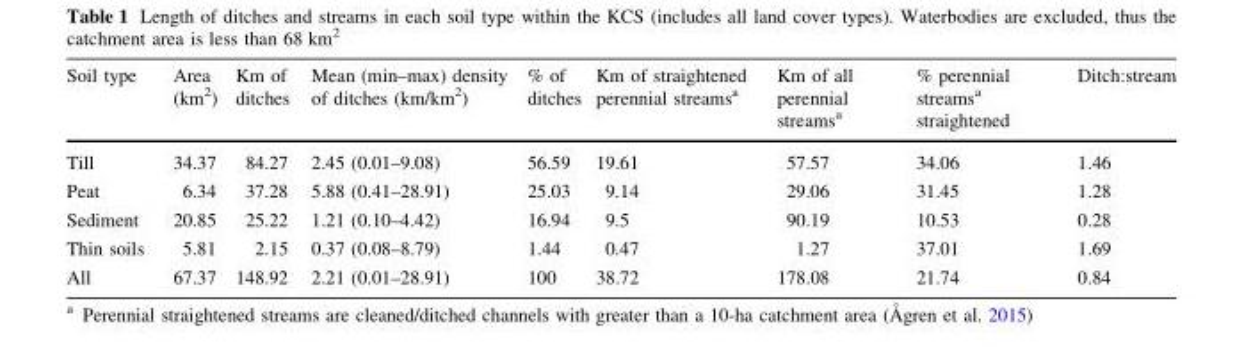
<table><thead><tr><td>Soil type</td><td>Area (km<sup>2</sup>)</td><td>Km of ditches</td><td>Mean (min–max) density of ditches (km/km<sup>2</sup>)</td><td>% of ditches</td><td>Km of straightened perennial streams<sup>a</sup></td><td>Km of all perennial streams<sup>a</sup></td><td>% perennial streams<sup>a</sup> straightened</td><td>Ditch:stream</td></tr></thead><tbody><tr><td>Till</td><td>34.37</td><td>84.27</td><td>2.45 (0.01–9.08)</td><td>56.59</td><td>19.61</td><td>57.57</td><td>34.06</td><td>1.46</td></tr><tr><td>Peat</td><td>6.34</td><td>37.28</td><td>5.88 (0.41–28.91)</td><td>25.03</td><td>9.14</td><td>29.06</td><td>31.45</td><td>1.28</td></tr><tr><td>Sediment</td><td>20.85</td><td>25.22</td><td>1.21 (0.10–4.42)</td><td>16.94</td><td>9.5</td><td>90.19</td><td>10.53</td><td>0.28</td></tr><tr><td>Thin soils</td><td>5.81</td><td>2.15</td><td>0.37 (0.08–8.79)</td><td>1.44</td><td>0.47</td><td>1.27</td><td>37.01</td><td>1.69</td></tr><tr><td>All</td><td>67.37</td><td>148.92</td><td>2.21 (0.01–28.91)</td><td>100</td><td>38.72</td><td>178.08</td><td>21.74</td><td>0.84</td></tr></tbody></table>